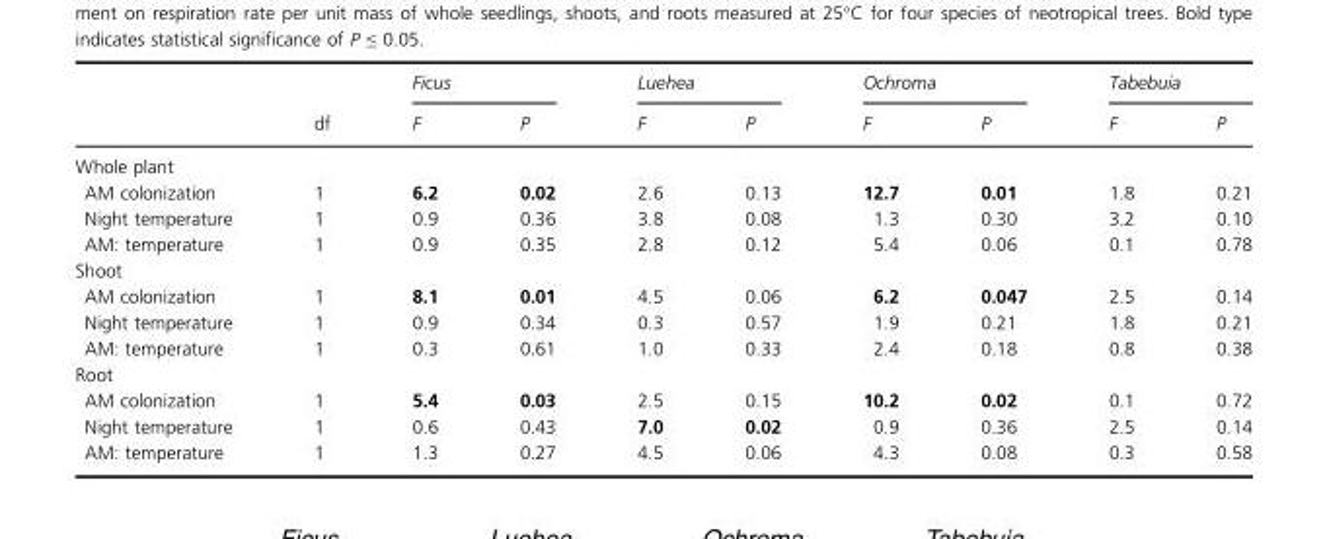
<table><thead><tr><td rowspan="2"></td><td rowspan="2">df</td><td colspan="2">Ficus</td><td colspan="2">Luehea</td><td colspan="2">Ochroma</td><td colspan="2">Tabebuia</td></tr><tr><td>F</td><td>P</td><td>F</td><td>P</td><td>F</td><td>P</td><td>F</td><td>P</td></tr></thead><tbody><tr><td colspan="10">Whole plant</td></tr><tr><td>AM colonization</td><td>1</td><td>6.2</td><td>0.02</td><td>2.6</td><td>0.13</td><td>12.7</td><td>0.01</td><td>1.8</td><td>0.21</td></tr><tr><td>Night temperature</td><td>1</td><td>0.9</td><td>0.36</td><td>3.8</td><td>0.08</td><td>1.3</td><td>0.30</td><td>3.2</td><td>0.10</td></tr><tr><td>AM: temperature</td><td>1</td><td>0.9</td><td>0.35</td><td>2.8</td><td>0.12</td><td>5.4</td><td>0.06</td><td>0.1</td><td>0.78</td></tr><tr><td colspan="10">Shoot</td></tr><tr><td>AM colonization</td><td>1</td><td>8.1</td><td>0.01</td><td>4.5</td><td>0.06</td><td>6.2</td><td>0.047</td><td>2.5</td><td>0.14</td></tr><tr><td>Night temperature</td><td>1</td><td>0.9</td><td>0.34</td><td>0.3</td><td>0.57</td><td>1.9</td><td>0.21</td><td>1.8</td><td>0.21</td></tr><tr><td>AM: temperature</td><td>1</td><td>0.3</td><td>0.61</td><td>1.0</td><td>0.33</td><td>2.4</td><td>0.18</td><td>0.8</td><td>0.38</td></tr><tr><td colspan="10">Root</td></tr><tr><td>AM colonization</td><td>1</td><td>5.4</td><td>0.03</td><td>2.5</td><td>0.15</td><td>10.2</td><td>0.02</td><td>0.1</td><td>0.72</td></tr><tr><td>Night temperature</td><td>1</td><td>0.6</td><td>0.43</td><td>7.0</td><td>0.02</td><td>0.9</td><td>0.36</td><td>2.5</td><td>0.14</td></tr><tr><td>AM: temperature</td><td>1</td><td>1.3</td><td>0.27</td><td>4.5</td><td>0.06</td><td>4.3</td><td>0.08</td><td>0.3</td><td>0.58</td></tr></tbody></table>